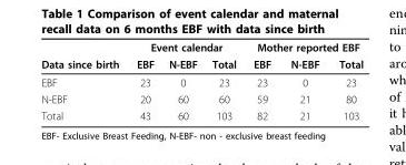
<table><thead><tr><td rowspan="2">Data since birth</td><td colspan="3">Event calendar</td><td colspan="3">Mother reported EBF</td></tr><tr><td>EBF</td><td>N-EBF</td><td>Total</td><td>EBF</td><td>N-EBF</td><td>Total</td></tr></thead><tbody><tr><td>EBF</td><td>23</td><td>0</td><td>23</td><td>23</td><td>0</td><td>23</td></tr><tr><td>N-EBF</td><td>20</td><td>60</td><td>60</td><td>59</td><td>21</td><td>80</td></tr><tr><td>Total</td><td>43</td><td>60</td><td>103</td><td>82</td><td>21</td><td>103</td></tr></tbody></table>